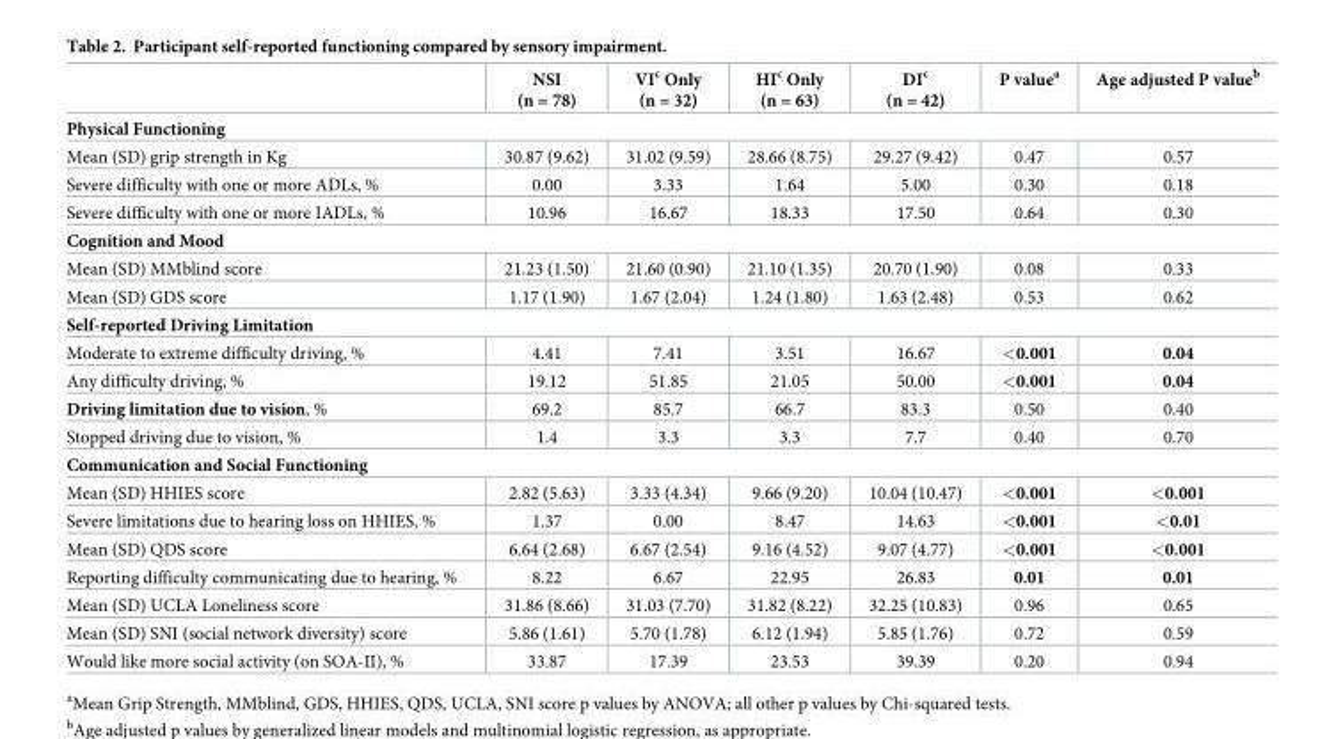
<table><thead><tr><td></td><td>NSI (n = 78)</td><td>VI<sup>c</sup> Only (n = 32)</td><td>HI<sup>c</sup> Only (n = 63)</td><td>DI<sup>c</sup> (n = 42)</td><td>P value<sup>a</sup></td><td>Age adjusted P value<sup>b</sup></td></tr></thead><tbody><tr><td colspan="7">Physical Functioning</td></tr><tr><td>Mean (SD) grip strength in Kg</td><td>30.87 (9.62)</td><td>31.02 (9.59)</td><td>28.66 (8.75)</td><td>29.27 (9.42)</td><td>0.47</td><td>0.57</td></tr><tr><td>Severe difficulty with one or more ADLs, %</td><td>0.00</td><td>3.33</td><td>1.64</td><td>5.00</td><td>0.30</td><td>0.18</td></tr><tr><td>Severe difficulty with one or more IADLs, %</td><td>10.96</td><td>16.67</td><td>18.33</td><td>17.50</td><td>0.64</td><td>0.30</td></tr><tr><td colspan="7">Cognition and Mood</td></tr><tr><td>Mean (SD) MMblind score</td><td>21.23 (1.50)</td><td>21.60 (0.90)</td><td>21.10 (1.35)</td><td>20.70 (1.90)</td><td>0.08</td><td>0.33</td></tr><tr><td>Mean (SD) GDS score</td><td>1.17 (1.90)</td><td>1.67 (2.04)</td><td>1.24 (1.80)</td><td>1.63 (2.48)</td><td>0.53</td><td>0.62</td></tr><tr><td colspan="7">Self-reported Driving Limitation</td></tr><tr><td>Moderate to extreme difficulty driving, %</td><td>4.41</td><td>7.41</td><td>3.51</td><td>16.67</td><td>&lt;0.001</td><td>0.04</td></tr><tr><td>Any difficulty driving, %</td><td>19.12</td><td>51.85</td><td>21.05</td><td>50.00</td><td>&lt;0.001</td><td>0.04</td></tr><tr><td>Driving limitation due to vision, %</td><td>69.2</td><td>85.7</td><td>66.7</td><td>83.3</td><td>0.50</td><td>0.40</td></tr><tr><td>Stopped driving due to vision, %</td><td>1.4</td><td>3.3</td><td>3.3</td><td>7.7</td><td>0.40</td><td>0.70</td></tr><tr><td colspan="7">Communication and Social Functioning</td></tr><tr><td>Mean (SD) HHIES score</td><td>2.82 (5.63)</td><td>3.33 (4.34)</td><td>9.66 (9.20)</td><td>10.04 (10.47)</td><td>&lt;0.001</td><td>&lt;0.001</td></tr><tr><td>Severe limitations due to hearing loss on HHIES, %</td><td>1.37</td><td>0.00</td><td>8.47</td><td>14.63</td><td>&lt;0.001</td><td>&lt;0.01</td></tr><tr><td>Mean (SD) QDS score</td><td>6.64 (2.68)</td><td>6.67 (2.54)</td><td>9.16 (4.52)</td><td>9.07 (4.77)</td><td>&lt;0.001</td><td>&lt;0.001</td></tr><tr><td>Reporting difficulty communicating due to hearing, %</td><td>8.22</td><td>6.67</td><td>22.95</td><td>26.83</td><td>0.01</td><td>0.01</td></tr><tr><td>Mean (SD) UCLA Loneliness score</td><td>31.86 (8.66)</td><td>31.03 (7.70)</td><td>31.82 (8.22)</td><td>32.25 (10.83)</td><td>0.96</td><td>0.65</td></tr><tr><td>Mean (SD) SNI (social network diversity) score</td><td>5.86 (1.61)</td><td>5.70 (1.78)</td><td>6.12 (1.94)</td><td>5.85 (1.76)</td><td>0.72</td><td>0.59</td></tr><tr><td>Would like more social activity (on SOA-II), %</td><td>33.87</td><td>17.39</td><td>23.53</td><td>39.39</td><td>0.20</td><td>0.94</td></tr></tbody></table>